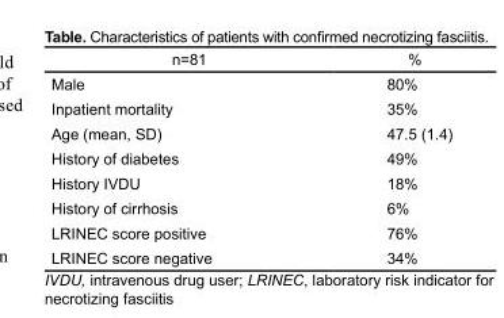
<table><thead><tr><td>n=81</td><td>%</td></tr></thead><tbody><tr><td>Male</td><td>80%</td></tr><tr><td>Inpatient mortality</td><td>35%</td></tr><tr><td>Age (mean, SD)</td><td>47.5 (1.4)</td></tr><tr><td>History of diabetes</td><td>49%</td></tr><tr><td>History IVDU</td><td>18%</td></tr><tr><td>History of cirrhosis</td><td>6%</td></tr><tr><td>LRINEC score positive</td><td>76%</td></tr><tr><td>LRINEC score negative</td><td>34%</td></tr></tbody></table>